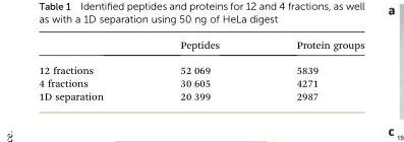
<table><thead><tr><td></td><td>Peptides</td><td>Protein groups</td></tr></thead><tbody><tr><td>12 fractions</td><td>52 069</td><td>5839</td></tr><tr><td>4 fractions</td><td>30 605</td><td>4271</td></tr><tr><td>1D separation</td><td>20 399</td><td>2987</td></tr></tbody></table>